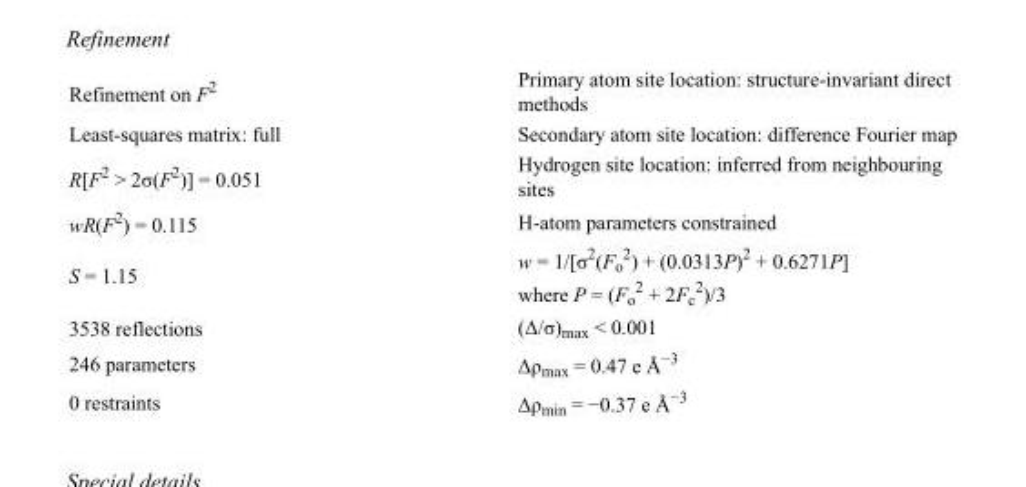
<table><tbody><tr><td>Refinement on F<sup>2</sup></td><td>Primary atom site location: structure-invariant direct methods</td></tr><tr><td>Least-squares matrix: full</td><td>Secondary atom site location: difference Fourier map</td></tr><tr><td>R[F<sup>2</sup> &gt; 2σ(F<sup>2</sup>)] = 0.051</td><td>Hydrogen site location: inferred from neighbouring sites</td></tr><tr><td>wR(F<sup>2</sup>) = 0.115</td><td>H-atom parameters constrained</td></tr><tr><td>S = 1.15</td><td>w = 1/[σ<sup>2</sup>(F<sub>o</sub> <sup>2</sup>) + (0.0313P)<sup>2</sup> + 0.6271P] where P = (F<sub>o</sub> <sup>2</sup> + 2F<sub>c</sub> <sup>2</sup>)/3</td></tr><tr><td>3538 reflections</td><td>(Δ/σ)<sub>max</sub> &lt; 0.001</td></tr><tr><td>246 parameters</td><td>Δρ<sub>max</sub> = 0.47 e Å<sup>−3</sup></td></tr><tr><td>0 restraints</td><td>Δρ<sub>min</sub> = −0.37 e Å<sup>−3</sup></td></tr></tbody></table>